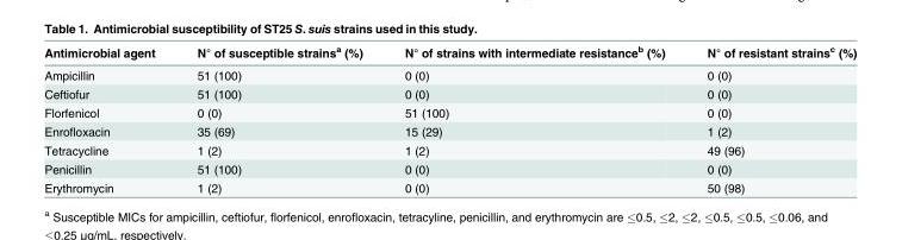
<table><thead><tr><td>Antimicrobial agent</td><td>N° of susceptible strains<sup>a</sup> (%)</td><td>N° of strains with intermediate resistance<sup>b</sup> (%)</td><td>N° of resistant strains<sup>c</sup> (%)</td></tr></thead><tbody><tr><td>Ampicillin</td><td>51 (100)</td><td>0 (0)</td><td>0 (0)</td></tr><tr><td>Ceftiofur</td><td>51 (100)</td><td>0 (0)</td><td>0 (0)</td></tr><tr><td>Florfenicol</td><td>0 (0)</td><td>51 (100)</td><td>0 (0)</td></tr><tr><td>Enrofloxacin</td><td>35 (69)</td><td>15 (29)</td><td>1 (2)</td></tr><tr><td>Tetracycline</td><td>1 (2)</td><td>1 (2)</td><td>49 (96)</td></tr><tr><td>Penicillin</td><td>51 (100)</td><td>0 (0)</td><td>0 (0)</td></tr><tr><td>Erythromycin</td><td>1 (2)</td><td>0 (0)</td><td>50 (98)</td></tr></tbody></table>